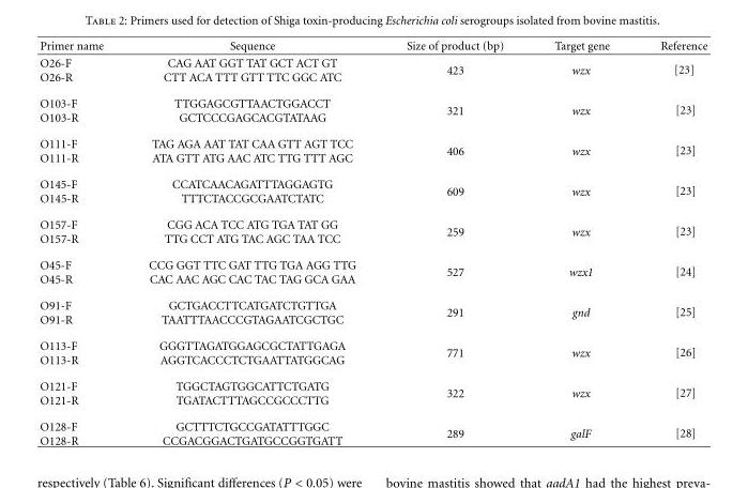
<table><thead><tr><td>Primer name</td><td>Sequence</td><td>Size of product (bp)</td><td>Target gene</td><td>Reference</td></tr></thead><tbody><tr><td>O26-F</td><td>CAG AAT GGT TAT GCT ACT GT</td><td rowspan="2">423</td><td rowspan="2">wzx</td><td rowspan="2">[23]</td></tr><tr><td>O26-R</td><td>CTT ACA TTT GTT TTC GGC ATC</td></tr><tr><td>O103-F</td><td>TTGGAGCGTTAACTGGACCT</td><td rowspan="2">321</td><td rowspan="2">wzx</td><td rowspan="2">[23]</td></tr><tr><td>O103-R</td><td>GCTCCCGAGCACGTATAAG</td></tr><tr><td>O111-F</td><td>TAG AGA AAT TAT CAA GTT AGT TCC</td><td rowspan="2">406</td><td rowspan="2">wzx</td><td rowspan="2">[23]</td></tr><tr><td>O111-R</td><td>ATA GTT ATG AAC ATC TTG TTT AGC</td></tr><tr><td>O145-F</td><td>CCATCAACAGATTTAGGAGTG</td><td rowspan="2">609</td><td rowspan="2">wzx</td><td rowspan="2">[23]</td></tr><tr><td>O145-R</td><td>TTTCTACCGCGAATCTATC</td></tr><tr><td>O157-F</td><td>CGG ACA TCC ATG TGA TAT GG</td><td rowspan="2">259</td><td rowspan="2">wzx</td><td rowspan="2">[23]</td></tr><tr><td>O157-R</td><td>TTG CCT ATG TAC AGC TAA TCC</td></tr><tr><td>O45-F</td><td>CCG GGT TTC GAT TTG TGA AGG TTG</td><td rowspan="2">527</td><td rowspan="2">wzx1</td><td rowspan="2">[24]</td></tr><tr><td>O45-R</td><td>CAC AAC AGC CAC TAC TAG GCA GAA</td></tr><tr><td>O91-F</td><td>GCTGACCTTCATGATCTGTTGA</td><td rowspan="2">291</td><td rowspan="2">gnd</td><td rowspan="2">[25]</td></tr><tr><td>O91-R</td><td>TAATTTAACCCGTAGAATCGCTGC</td></tr><tr><td>O113-F</td><td>GGGTTAGATGGAGCGCTATTGAGA</td><td rowspan="2">771</td><td rowspan="2">wzx</td><td rowspan="2">[26]</td></tr><tr><td>O113-R</td><td>AGGTCACCCTCTGAATTATGGCAG</td></tr><tr><td>O121-F</td><td>TGGCTAGTGGCATTCTGATG</td><td rowspan="2">322</td><td rowspan="2">wzx</td><td rowspan="2">[27]</td></tr><tr><td>O121-R</td><td>TGATACTTTAGCCGCCCTTG</td></tr><tr><td>O128-F</td><td>GCTTTCTGCCGATATTTGGC</td><td rowspan="2">289</td><td rowspan="2">galF</td><td rowspan="2">[28]</td></tr><tr><td>O128-R</td><td>CCGACGGACTGATGCCGGTGATT</td></tr></tbody></table>